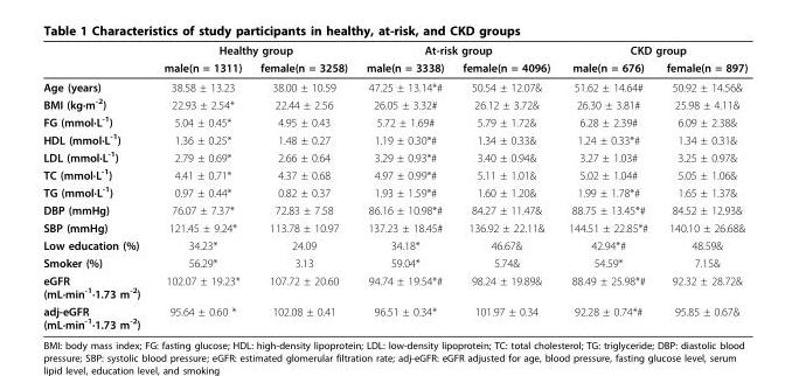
<table><thead><tr><td rowspan="2"></td><td colspan="2">Healthy group</td><td colspan="2">At-risk group</td><td colspan="2">CKD group</td></tr><tr><td>male(n = 1311)</td><td>female(n = 3258)</td><td>male(n = 3338)</td><td>female(n = 4096)</td><td>male(n = 676)</td><td>female(n = 897)</td></tr></thead><tbody><tr><td>Age (years)</td><td>38.58 ± 13.23</td><td>38.00 ± 10.59</td><td>47.25 ± 13.14*#</td><td>50.54 ± 12.07&amp;</td><td>51.62 ± 14.64#</td><td>50.92 ± 14.56&amp;</td></tr><tr><td>BMI (kg·m<sup>-2</sup>)</td><td>22.93 ± 2.54*</td><td>22.44 ± 2.56</td><td>26.05 ± 3.32#</td><td>26.12 ± 3.72&amp;</td><td>26.30 ± 3.81#</td><td>25.98 ± 4.11&amp;</td></tr><tr><td>FG (mmol·L<sup>-1</sup>)</td><td>5.04 ± 0.45*</td><td>4.95 ± 0.43</td><td>5.72 ± 1.69#</td><td>5.79 ± 1.72&amp;</td><td>6.28 ± 2.39#</td><td>6.09 ± 2.38&amp;</td></tr><tr><td>HDL (mmol·L<sup>-1</sup>)</td><td>1.36 ± 0.25*</td><td>1.48 ± 0.27</td><td>1.19 ± 0.30*#</td><td>1.34 ± 0.33&amp;</td><td>1.24 ± 0.33*#</td><td>1.34 ± 0.31&amp;</td></tr><tr><td>LDL (mmol·L<sup>-1</sup>)</td><td>2.79 ± 0.69*</td><td>2.66 ± 0.64</td><td>3.29 ± 0.93*#</td><td>3.40 ± 0.94&amp;</td><td>3.27 ± 1.03#</td><td>3.25 ± 0.97&amp;</td></tr><tr><td>TC (mmol·L<sup>-1</sup>)</td><td>4.41 ± 0.71*</td><td>4.37 ± 0.68</td><td>4.97 ± 0.99*#</td><td>5.11 ± 1.01&amp;</td><td>5.02 ± 1.04#</td><td>5.05 ± 1.06&amp;</td></tr><tr><td>TG (mmol·L<sup>-1</sup>)</td><td>0.97 ± 0.44*</td><td>0.82 ± 0.37</td><td>1.93 ± 1.59*#</td><td>1.60 ± 1.20&amp;</td><td>1.99 ± 1.78*#</td><td>1.65 ± 1.37&amp;</td></tr><tr><td>DBP (mmHg)</td><td>76.07 ± 7.37*</td><td>72.83 ± 7.58</td><td>86.16 ± 10.98*#</td><td>84.27 ± 11.47&amp;</td><td>88.75 ± 13.45*#</td><td>84.52 ± 12.93&amp;</td></tr><tr><td>SBP (mmHg)</td><td>121.45 ± 9.24*</td><td>113.78 ± 10.97</td><td>137.23 ± 18.45#</td><td>136.92 ± 22.11&amp;</td><td>144.51 ± 22.85*#</td><td>140.10 ± 26.68&amp;</td></tr><tr><td>Low education (%)</td><td>34.23*</td><td>24.09</td><td>34.18*</td><td>46.67&amp;</td><td>42.94*#</td><td>48.59&amp;</td></tr><tr><td>Smoker (%)</td><td>56.29*</td><td>3.13</td><td>59.04*</td><td>5.74&amp;</td><td>54.59*</td><td>7.15&amp;</td></tr><tr><td>eGFR (mL·min<sup>-1</sup>·1.73 m<sup>-2</sup>)</td><td>102.07 ± 19.23*</td><td>107.72 ± 20.60</td><td>94.74 ± 19.54*#</td><td>98.24 ± 19.89&amp;</td><td>88.49 ± 25.98*#</td><td>92.32 ± 28.72&amp;</td></tr><tr><td>adj-eGFR (mL·min<sup>-1</sup>·1.73 m<sup>-2</sup>)</td><td>95.64 ± 0.60 *</td><td>102.08 ± 0.41</td><td>96.51 ± 0.34*</td><td>101.97 ± 0.34</td><td>92.28 ± 0.74*#</td><td>95.85 ± 0.67&amp;</td></tr></tbody></table>